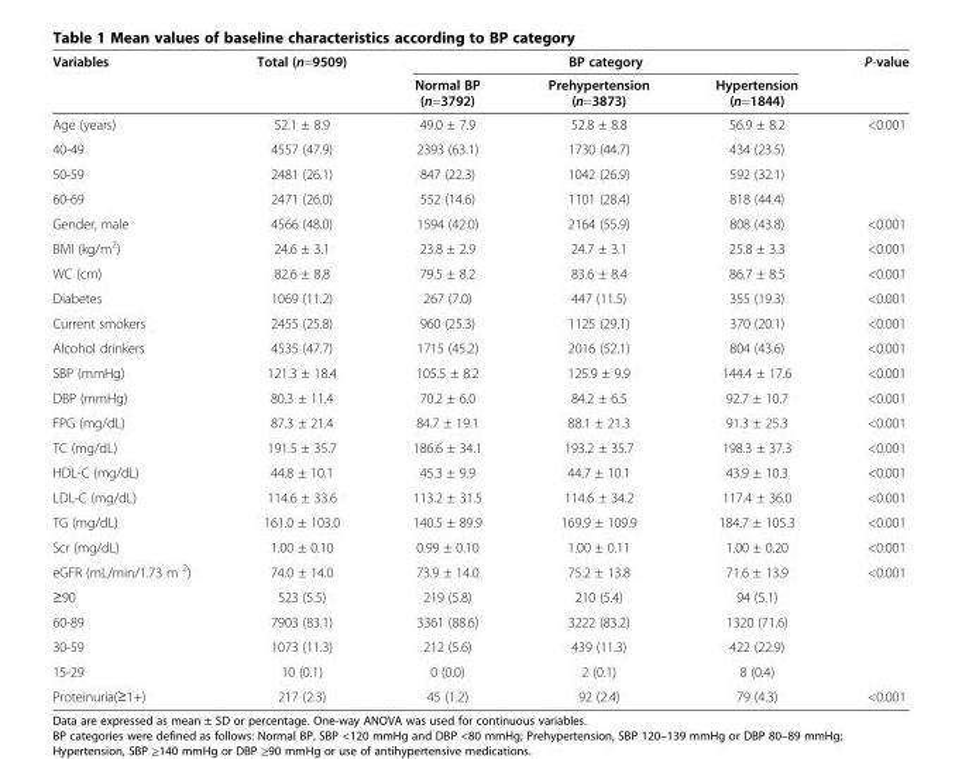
<table><thead><tr><td rowspan="2">Variables</td><td rowspan="2">Total (n=9509)</td><td colspan="3">BP category</td><td rowspan="2">P-value</td></tr><tr><td>Normal BP (n=3792)</td><td>Prehypertension (n=3873)</td><td>Hypertension (n=1844)</td></tr></thead><tbody><tr><td>Age (years)</td><td>52.1 ± 8.9</td><td>49.0 ± 7.9</td><td>52.8 ± 8.8</td><td>56.9 ± 8.2</td><td>&lt;0.001</td></tr><tr><td>40-49</td><td>4557 (47.9)</td><td>2393 (63.1)</td><td>1730 (44.7)</td><td>434 (23.5)</td><td></td></tr><tr><td>50-59</td><td>2481 (26.1)</td><td>847 (22.3)</td><td>1042 (26.9)</td><td>592 (32.1)</td><td></td></tr><tr><td>60-69</td><td>2471 (26.0)</td><td>552 (14.6)</td><td>1101 (28.4)</td><td>818 (44.4)</td><td></td></tr><tr><td>Gender, male</td><td>4566 (48.0)</td><td>1594 (42.0)</td><td>2164 (55.9)</td><td>808 (43.8)</td><td>&lt;0.001</td></tr><tr><td>BMI (kg/m<sup>2</sup>)</td><td>24.6 ± 3.1</td><td>23.8 ± 2.9</td><td>24.7 ± 3.1</td><td>25.8 ± 3.3</td><td>&lt;0.001</td></tr><tr><td>WC (cm)</td><td>82.6 ± 8.8</td><td>79.5 ± 8.2</td><td>83.6 ± 8.4</td><td>86.7 ± 8.5</td><td>&lt;0.001</td></tr><tr><td>Diabetes</td><td>1069 (11.2)</td><td>267 (7.0)</td><td>447 (11.5)</td><td>355 (19.3)</td><td>&lt;0.001</td></tr><tr><td>Current smokers</td><td>2455 (25.8)</td><td>960 (25.3)</td><td>1125 (29.1)</td><td>370 (20.1)</td><td>&lt;0.001</td></tr><tr><td>Alcohol drinkers</td><td>4535 (47.7)</td><td>1715 (45.2)</td><td>2016 (52.1)</td><td>804 (43.6)</td><td>&lt;0.001</td></tr><tr><td>SBP (mmHg)</td><td>121.3 ± 18.4</td><td>105.5 ± 8.2</td><td>125.9 ± 9.9</td><td>144.4 ± 17.6</td><td>&lt;0.001</td></tr><tr><td>DBP (mmHg)</td><td>80.3 ± 11.4</td><td>70.2 ± 6.0</td><td>84.2 ± 6.5</td><td>92.7 ± 10.7</td><td>&lt;0.001</td></tr><tr><td>FPG (mg/dL)</td><td>87.3 ± 21.4</td><td>84.7 ± 19.1</td><td>88.1 ± 21.3</td><td>91.3 ± 25.3</td><td>&lt;0.001</td></tr><tr><td>TC (mg/dL)</td><td>191.5 ± 35.7</td><td>186.6 ± 34.1</td><td>193.2 ± 35.7</td><td>198.3 ± 37.3</td><td>&lt;0.001</td></tr><tr><td>HDL-C (mg/dL)</td><td>44.8 ± 10.1</td><td>45.3 ± 9.9</td><td>44.7 ± 10.1</td><td>43.9 ± 10.3</td><td>&lt;0.001</td></tr><tr><td>LDL-C (mg/dL)</td><td>114.6 ± 33.6</td><td>113.2 ± 31.5</td><td>114.6 ± 34.2</td><td>117.4 ± 36.0</td><td>&lt;0.001</td></tr><tr><td>TG (mg/dL)</td><td>161.0 ± 103.0</td><td>140.5 ± 89.9</td><td>169.9 ± 109.9</td><td>184.7 ± 105.3</td><td>&lt;0.001</td></tr><tr><td>Scr (mg/dL)</td><td>1.00 ± 0.10</td><td>0.99 ± 0.10</td><td>1.00 ± 0.11</td><td>1.00 ± 0.20</td><td>&lt;0.001</td></tr><tr><td>eGFR (mL/min/1.73 m <sup>2</sup>)</td><td>74.0 ± 14.0</td><td>73.9 ± 14.0</td><td>75.2 ± 13.8</td><td>71.6 ± 13.9</td><td>&lt;0.001</td></tr><tr><td>≥90</td><td>523 (5.5)</td><td>219 (5.8)</td><td>210 (5.4)</td><td>94 (5.1)</td><td></td></tr><tr><td>60-89</td><td>7903 (83.1)</td><td>3361 (88.6)</td><td>3222 (83.2)</td><td>1320 (71.6)</td><td></td></tr><tr><td>30-59</td><td>1073 (11.3)</td><td>212 (5.6)</td><td>439 (11.3)</td><td>422 (22.9)</td><td></td></tr><tr><td>15-29</td><td>10 (0.1)</td><td>0 (0.0)</td><td>2 (0.1)</td><td>8 (0.4)</td><td></td></tr><tr><td>Proteinuria(≥1+)</td><td>217 (2.3)</td><td>45 (1.2)</td><td>92 (2.4)</td><td>79 (4.3)</td><td>&lt;0.001</td></tr></tbody></table>